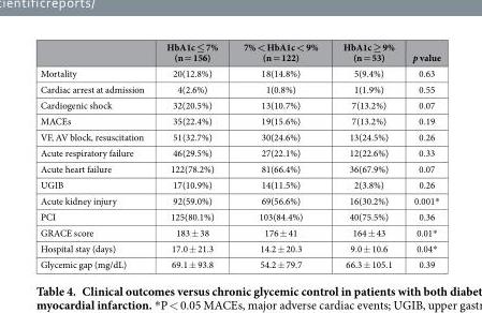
<table><thead><tr><td></td><td>HbA1c ≤ 7% (n = 156)</td><td>7% &lt; HbA1c &lt; 9% (n = 122)</td><td>HbA1c ≥ 9% (n = 53)</td><td>p value</td></tr></thead><tbody><tr><td>Mortality</td><td>20(12.8%)</td><td>18(14.8%)</td><td>5(9.4%)</td><td>0.63</td></tr><tr><td>Cardiac arrest at admission</td><td>4(2.6%)</td><td>1(0.8%)</td><td>1(1.9%)</td><td>0.55</td></tr><tr><td>Cardiogenic shock</td><td>32(20.5%)</td><td>13(10.7%)</td><td>7(13.2%)</td><td>0.07</td></tr><tr><td>MACEs</td><td>35(22.4%)</td><td>19(15.6%)</td><td>7(13.2%)</td><td>0.19</td></tr><tr><td>VF, AV block, resuscitation</td><td>51(32.7%)</td><td>30(24.6%)</td><td>13(24.5%)</td><td>0.26</td></tr><tr><td>Acute respiratory failure</td><td>46(29.5%)</td><td>27(22.1%)</td><td>12(22.6%)</td><td>0.33</td></tr><tr><td>Acute heart failure</td><td>122(78.2%)</td><td>81(66.4%)</td><td>36(67.9%)</td><td>0.07</td></tr><tr><td>UGIB</td><td>17(10.9%)</td><td>14(11.5%)</td><td>2(3.8%)</td><td>0.26</td></tr><tr><td>Acute kidney injury</td><td>92(59.0%)</td><td>69(56.6%)</td><td>16(30.2%)</td><td>0.001*</td></tr><tr><td>PCI</td><td>125(80.1%)</td><td>103(84.4%)</td><td>40(75.5%)</td><td>0.36</td></tr><tr><td>GRACE score</td><td>183 ± 38</td><td>176 ± 41</td><td>164 ± 43</td><td>0.01*</td></tr><tr><td>Hospital stay (days)</td><td>17.0 ± 21.3</td><td>14.2 ± 20.3</td><td>9.0 ± 10.6</td><td>0.04*</td></tr><tr><td>Glycemic gap (mg/dL)</td><td>69.1 ± 93.8</td><td>54.2 ± 79.7</td><td>66.3 ± 105.1</td><td>0.39</td></tr></tbody></table>